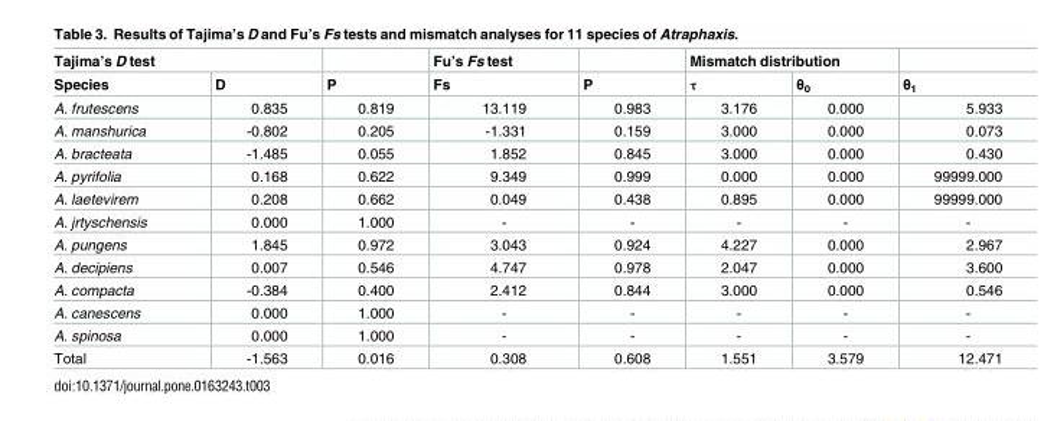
<table><thead><tr><td colspan="2">Tajima’s D test</td><td rowspan="2">P</td><td rowspan="2">Fu’s Fs test Fs</td><td rowspan="2">P</td><td colspan="2">Mismatch distribution</td><td rowspan="2">θ<sub>1</sub></td></tr><tr><td>Species</td><td>D</td><td>τ</td><td>θ<sub>0</sub></td></tr></thead><tbody><tr><td>A. frutescens</td><td>0.835</td><td>0.819</td><td>13.119</td><td>0.983</td><td>3.176</td><td>0.000</td><td>5.933</td></tr><tr><td>A. manshurica</td><td>-0.802</td><td>0.205</td><td>-1.331</td><td>0.159</td><td>3.000</td><td>0.000</td><td>0.073</td></tr><tr><td>A. bracteata</td><td>-1.485</td><td>0.055</td><td>1.852</td><td>0.845</td><td>3.000</td><td>0.000</td><td>0.430</td></tr><tr><td>A. pyrifolia</td><td>0.168</td><td>0.622</td><td>9.349</td><td>0.999</td><td>0.000</td><td>0.000</td><td>99999.000</td></tr><tr><td>A. laetevirem</td><td>0.208</td><td>0.662</td><td>0.049</td><td>0.438</td><td>0.895</td><td>0.000</td><td>99999.000</td></tr><tr><td>A. jrtyschensis</td><td>0.000</td><td>1.000</td><td>-</td><td>-</td><td>-</td><td>-</td><td>-</td></tr><tr><td>A. pungens</td><td>1.845</td><td>0.972</td><td>3.043</td><td>0.924</td><td>4.227</td><td>0.000</td><td>2.967</td></tr><tr><td>A. decipiens</td><td>0.007</td><td>0.546</td><td>4.747</td><td>0.978</td><td>2.047</td><td>0.000</td><td>3.600</td></tr><tr><td>A. compacta</td><td>-0.384</td><td>0.400</td><td>2.412</td><td>0.844</td><td>3.000</td><td>0.000</td><td>0.546</td></tr><tr><td>A. canescens</td><td>0.000</td><td>1.000</td><td>-</td><td>-</td><td>-</td><td>-</td><td>-</td></tr><tr><td>A. spinosa</td><td>0.000</td><td>1.000</td><td>-</td><td>-</td><td>-</td><td>-</td><td>-</td></tr><tr><td>Total</td><td>-1.563</td><td>0.016</td><td>0.308</td><td>0.608</td><td>1.551</td><td>3.579</td><td>12.471</td></tr></tbody></table>